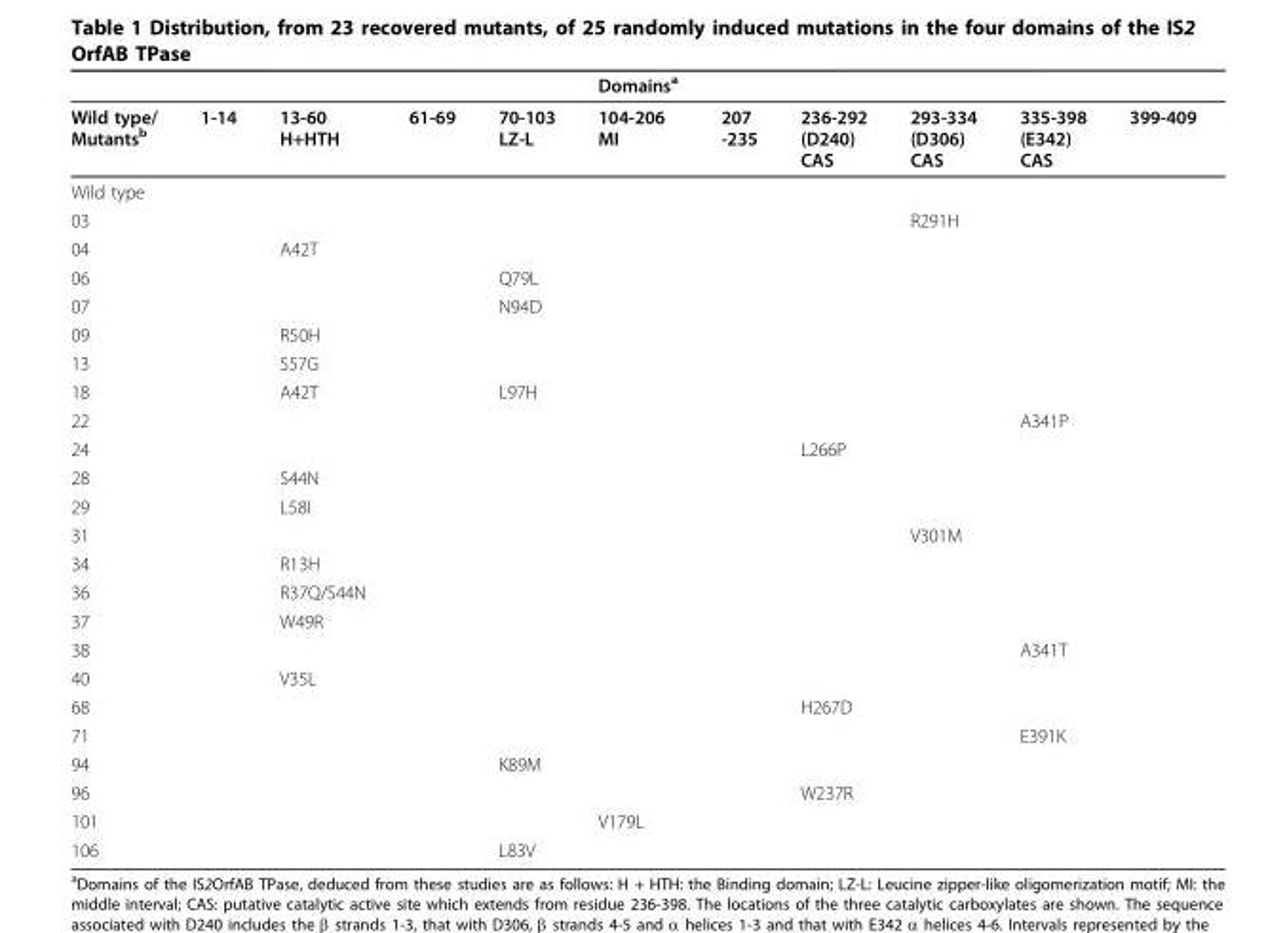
<table><thead><tr><td></td><td></td><td></td><td></td><td></td><td>Domains<sup>a</sup></td><td></td><td></td><td></td><td></td><td></td></tr></thead><tbody><tr><td>Wild type/ Mutants<sup>b</sup></td><td>1-14</td><td>13-60 H+HTH</td><td>61-69</td><td>70-103 LZ-L</td><td>104-206 MI</td><td>207 -235</td><td>236-292 (D240) CAS</td><td>293-334 (D306) CAS</td><td>335-398 (E342) CAS</td><td>399-409</td></tr><tr><td colspan="11">Wild type</td></tr><tr><td>03</td><td></td><td></td><td></td><td></td><td></td><td></td><td></td><td>R291H</td><td></td><td></td></tr><tr><td>04</td><td></td><td>A42T</td><td></td><td></td><td></td><td></td><td></td><td></td><td></td><td></td></tr><tr><td>06</td><td></td><td></td><td></td><td>Q79L</td><td></td><td></td><td></td><td></td><td></td><td></td></tr><tr><td>07</td><td></td><td></td><td></td><td>N94D</td><td></td><td></td><td></td><td></td><td></td><td></td></tr><tr><td>09</td><td></td><td>R50H</td><td></td><td></td><td></td><td></td><td></td><td></td><td></td><td></td></tr><tr><td>13</td><td></td><td>S57G</td><td></td><td></td><td></td><td></td><td></td><td></td><td></td><td></td></tr><tr><td>18</td><td></td><td>A42T</td><td></td><td>L97H</td><td></td><td></td><td></td><td></td><td></td><td></td></tr><tr><td>22</td><td></td><td></td><td></td><td></td><td></td><td></td><td></td><td></td><td>A341P</td><td></td></tr><tr><td>24</td><td></td><td></td><td></td><td></td><td></td><td></td><td>L266P</td><td></td><td></td><td></td></tr><tr><td>28</td><td></td><td>S44N</td><td></td><td></td><td></td><td></td><td></td><td></td><td></td><td></td></tr><tr><td>29</td><td></td><td>L58I</td><td></td><td></td><td></td><td></td><td></td><td></td><td></td><td></td></tr><tr><td>31</td><td></td><td></td><td></td><td></td><td></td><td></td><td></td><td>V301M</td><td></td><td></td></tr><tr><td>34</td><td></td><td>R13H</td><td></td><td></td><td></td><td></td><td></td><td></td><td></td><td></td></tr><tr><td>36</td><td></td><td>R37Q/S44N</td><td></td><td></td><td></td><td></td><td></td><td></td><td></td><td></td></tr><tr><td>37</td><td></td><td>W49R</td><td></td><td></td><td></td><td></td><td></td><td></td><td></td><td></td></tr><tr><td>38</td><td></td><td></td><td></td><td></td><td></td><td></td><td></td><td></td><td>A341T</td><td></td></tr><tr><td>40</td><td></td><td>V35L</td><td></td><td></td><td></td><td></td><td></td><td></td><td></td><td></td></tr><tr><td>68</td><td></td><td></td><td></td><td></td><td></td><td></td><td>H267D</td><td></td><td></td><td></td></tr><tr><td>71</td><td></td><td></td><td></td><td></td><td></td><td></td><td></td><td></td><td>E391K</td><td></td></tr><tr><td>94</td><td></td><td></td><td></td><td>K89M</td><td></td><td></td><td></td><td></td><td></td><td></td></tr><tr><td>96</td><td></td><td></td><td></td><td></td><td></td><td></td><td>W237R</td><td></td><td></td><td></td></tr><tr><td>101</td><td></td><td></td><td></td><td></td><td>V179L</td><td></td><td></td><td></td><td></td><td></td></tr><tr><td>106</td><td></td><td></td><td></td><td>L83V</td><td></td><td></td><td></td><td></td><td></td><td></td></tr></tbody></table>